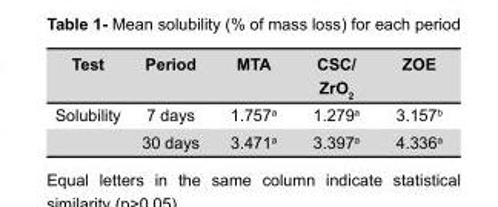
<table><thead><tr><td>Test</td><td>Period</td><td>MTA</td><td>CSC/ ZrO<sub>2</sub></td><td>ZOE</td></tr></thead><tbody><tr><td rowspan="2">Solubility</td><td>7 days</td><td>1.757<sup>a</sup></td><td>1.279<sup>a</sup></td><td>3.157<sup>b</sup></td></tr><tr><td>30 days</td><td>3.471<sup>a</sup></td><td>3.397<sup>a</sup></td><td>4.336<sup>a</sup></td></tr></tbody></table>